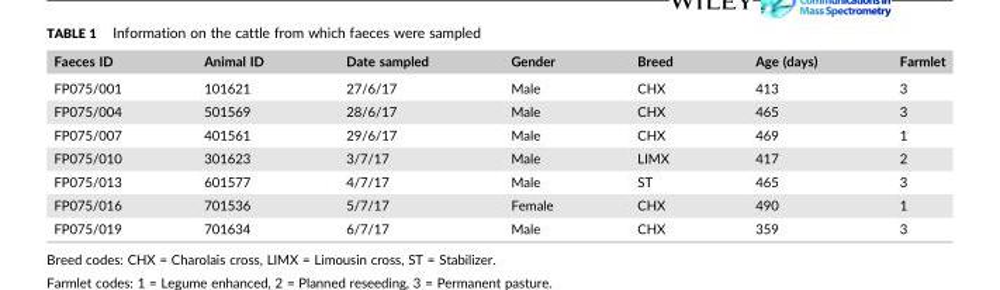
<table><thead><tr><td>Faeces ID</td><td>Animal ID</td><td>Date sampled</td><td>Gender</td><td>Breed</td><td>Age (days)</td><td>Farmlet</td></tr></thead><tbody><tr><td>FP075/001</td><td>101621</td><td>27/6/17</td><td>Male</td><td>CHX</td><td>413</td><td>3</td></tr><tr><td>FP075/004</td><td>501569</td><td>28/6/17</td><td>Male</td><td>CHX</td><td>465</td><td>3</td></tr><tr><td>FP075/007</td><td>401561</td><td>29/6/17</td><td>Male</td><td>CHX</td><td>469</td><td>1</td></tr><tr><td>FP075/010</td><td>301623</td><td>3/7/17</td><td>Male</td><td>LIMX</td><td>417</td><td>2</td></tr><tr><td>FP075/013</td><td>601577</td><td>4/7/17</td><td>Male</td><td>ST</td><td>465</td><td>3</td></tr><tr><td>FP075/016</td><td>701536</td><td>5/7/17</td><td>Female</td><td>CHX</td><td>490</td><td>1</td></tr><tr><td>FP075/019</td><td>701634</td><td>6/7/17</td><td>Male</td><td>CHX</td><td>359</td><td>3</td></tr></tbody></table>